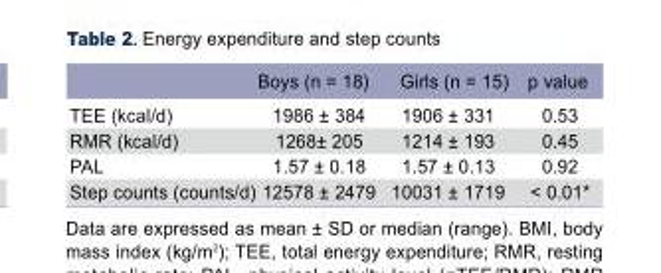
<table><thead><tr><td></td><td>Boys (n = 18)</td><td>Girls (n = 15)</td><td>p value</td></tr></thead><tbody><tr><td>TEE (kcal/d)</td><td>1986 ± 384</td><td>1906 ± 331</td><td>0.53</td></tr><tr><td>RMR (kcal/d)</td><td>1268± 205</td><td>1214 ± 193</td><td>0.45</td></tr><tr><td>PAL</td><td>1.57 ± 0.18</td><td>1.57 ± 0.13</td><td>0.92</td></tr><tr><td>Step counts (counts/d)</td><td>12578 ± 2479</td><td>10031 ± 1719</td><td>&lt; 0.01*</td></tr></tbody></table>